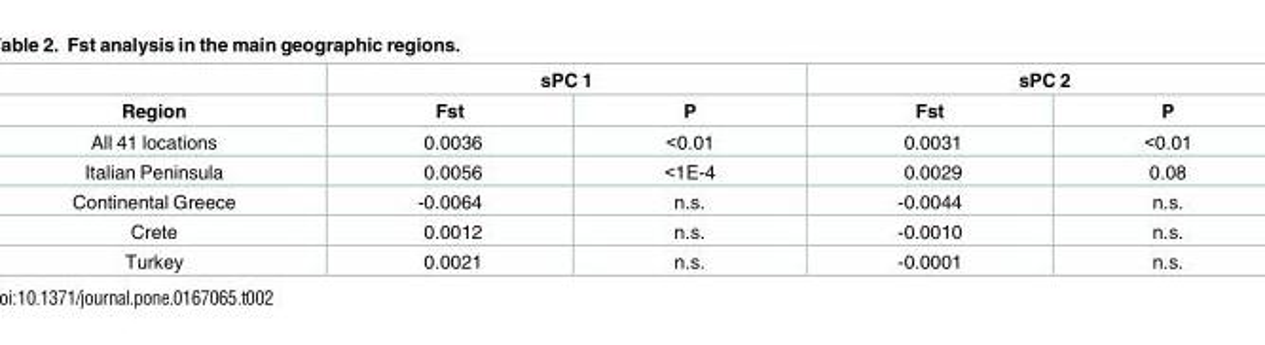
<table><thead><tr><td rowspan="2">Region</td><td colspan="2">sPC 1</td><td colspan="2">sPC 2</td></tr><tr><td>Fst</td><td>P</td><td>Fst</td><td>P</td></tr></thead><tbody><tr><td>All 41 locations</td><td>0.0036</td><td>&lt;0.01</td><td>0.0031</td><td>&lt;0.01</td></tr><tr><td>Italian Peninsula</td><td>0.0056</td><td>&lt;1E-4</td><td>0.0029</td><td>0.08</td></tr><tr><td>Continental Greece</td><td>-0.0064</td><td>n.s.</td><td>-0.0044</td><td>n.s.</td></tr><tr><td>Crete</td><td>0.0012</td><td>n.s.</td><td>-0.0010</td><td>n.s.</td></tr><tr><td>Turkey</td><td>0.0021</td><td>n.s.</td><td>-0.0001</td><td>n.s.</td></tr></tbody></table>